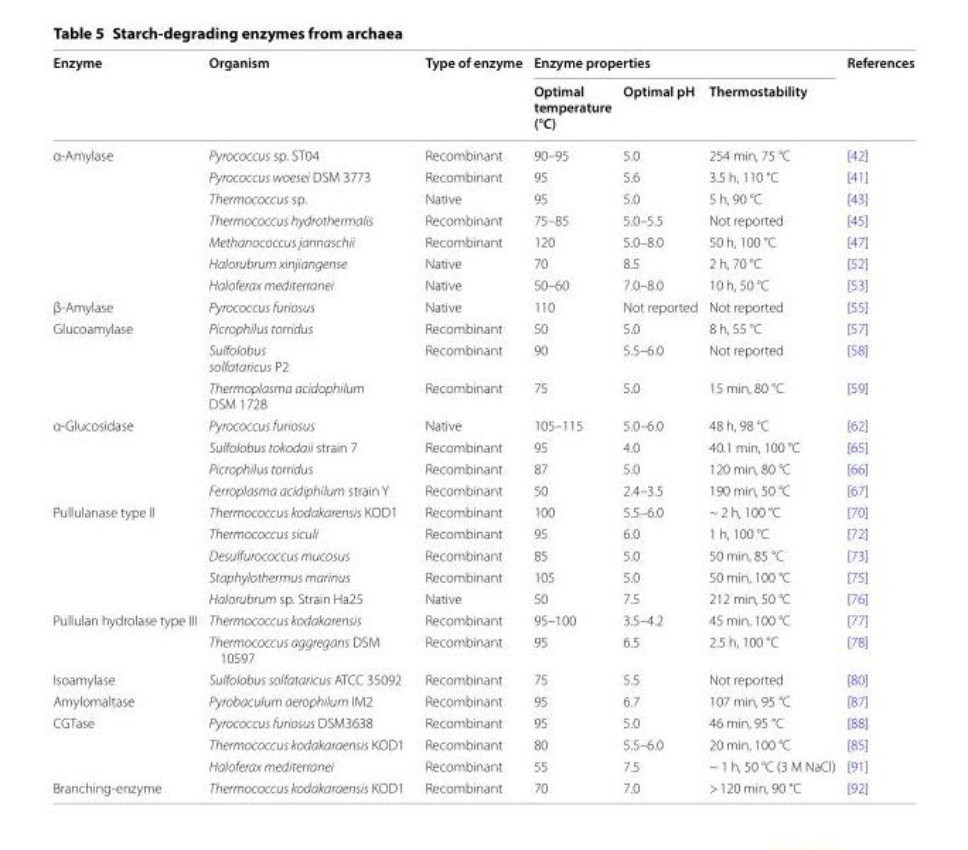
<table><thead><tr><td rowspan="2">Enzyme</td><td rowspan="2">Organism</td><td rowspan="2">Type of enzyme</td><td colspan="3">Enzyme properties</td><td rowspan="2">References</td></tr><tr><td>Optimal temperature (°C)</td><td>Optimal pH</td><td>Thermostability</td></tr></thead><tbody><tr><td rowspan="7">α-Amylase</td><td>Pyrococcus sp. ST04</td><td>Recombinant</td><td>90–95</td><td>5.0</td><td>254 min, 75 °C</td><td>[42]</td></tr><tr><td>Pyrococcus woesei DSM 3773</td><td>Recombinant</td><td>95</td><td>5.6</td><td>3.5 h, 110 °C</td><td>[41]</td></tr><tr><td>Thermococcus sp.</td><td>Native</td><td>95</td><td>5.0</td><td>5 h, 90 °C</td><td>[43]</td></tr><tr><td>Thermococcus hydrothermalis</td><td>Recombinant</td><td>75–85</td><td>5.0–5.5</td><td>Not reported</td><td>[45]</td></tr><tr><td>Methanococcus jannaschii</td><td>Recombinant</td><td>120</td><td>5.0–8.0</td><td>50 h, 100 °C</td><td>[47]</td></tr><tr><td>Halorubrum xinjiangense</td><td>Native</td><td>70</td><td>8.5</td><td>2 h, 70 °C</td><td>[52]</td></tr><tr><td>Haloferax mediterranei</td><td>Native</td><td>50–60</td><td>7.0–8.0</td><td>10 h, 50 °C</td><td>[53]</td></tr><tr><td>β-Amylase</td><td>Pyrococcus furiosus</td><td>Native</td><td>110</td><td>Not reported</td><td>Not reported</td><td>[55]</td></tr><tr><td rowspan="3">Glucoamylase</td><td>Picrophilus torridus</td><td>Recombinant</td><td>50</td><td>5.0</td><td>8 h, 55 °C</td><td>[57]</td></tr><tr><td>Sulfolobus solfataricus P2</td><td>Recombinant</td><td>90</td><td>5.5–6.0</td><td>Not reported</td><td>[58]</td></tr><tr><td>Thermoplasma acidophilum DSM 1728</td><td>Recombinant</td><td>75</td><td>5.0</td><td>15 min, 80 °C</td><td>[59]</td></tr><tr><td rowspan="4">α-Glucosidase</td><td>Pyrococcus furiosus</td><td>Native</td><td>105–115</td><td>5.0–6.0</td><td>48 h, 98 °C</td><td>[62]</td></tr><tr><td>Sulfolobus tokodaii strain 7</td><td>Recombinant</td><td>95</td><td>4.0</td><td>40.1 min, 100 °C</td><td>[65]</td></tr><tr><td>Picrophilus torridus</td><td>Recombinant</td><td>87</td><td>5.0</td><td>120 min, 80 °C</td><td>[66]</td></tr><tr><td>Ferroplasma acidiphilum strain Y</td><td>Recombinant</td><td>50</td><td>2.4–3.5</td><td>190 min, 50 °C</td><td>[67]</td></tr><tr><td rowspan="5">Pullulanase type II</td><td>Thermococcus kodakarensis KOD1</td><td>Recombinant</td><td>100</td><td>5.5–6.0</td><td>~ 2 h, 100 °C</td><td>[70]</td></tr><tr><td>Thermococcus siculi</td><td>Recombinant</td><td>95</td><td>6.0</td><td>1 h, 100 °C</td><td>[72]</td></tr><tr><td>Desulfurococcus mucosus</td><td>Recombinant</td><td>85</td><td>5.0</td><td>50 min, 85 °C</td><td>[73]</td></tr><tr><td>Staphylothermus marinus</td><td>Recombinant</td><td>105</td><td>5.0</td><td>50 min, 100 °C</td><td>[75]</td></tr><tr><td>Halorubrum sp. Strain Ha25</td><td>Native</td><td>50</td><td>7.5</td><td>212 min, 50 °C</td><td>[76]</td></tr><tr><td rowspan="2">Pullulan hydrolase type III</td><td>Thermococcus kodakarensis</td><td>Recombinant</td><td>95–100</td><td>3.5–4.2</td><td>45 min, 100 °C</td><td>[77]</td></tr><tr><td>Thermococcus aggregans DSM 10597</td><td>Recombinant</td><td>95</td><td>6.5</td><td>2.5 h, 100 °C</td><td>[78]</td></tr><tr><td>Isoamylase</td><td>Sulfolobus solfataricus ATCC 35092</td><td>Recombinant</td><td>75</td><td>5.5</td><td>Not reported</td><td>[80]</td></tr><tr><td>Amylomaltase</td><td>Pyrobaculum aerophilum IM2</td><td>Recombinant</td><td>95</td><td>6.7</td><td>107 min, 95 °C</td><td>[87]</td></tr><tr><td rowspan="3">CGTase</td><td>Pyrococcus furiosus DSM3638</td><td>Recombinant</td><td>95</td><td>5.0</td><td>46 min, 95 °C</td><td>[88]</td></tr><tr><td>Thermococcus kodakaraensis KOD1</td><td>Recombinant</td><td>80</td><td>5.5–6.0</td><td>20 min, 100 °C</td><td>[85]</td></tr><tr><td>Haloferax mediterranei</td><td>Recombinant</td><td>55</td><td>7.5</td><td>~ 1 h, 50 °C (3 M NaCl)</td><td>[91]</td></tr><tr><td>Branching-enzyme</td><td>Thermococcus kodakaraensis KOD1</td><td>Recombinant</td><td>70</td><td>7.0</td><td>&gt; 120 min, 90 °C</td><td>[92]</td></tr></tbody></table>